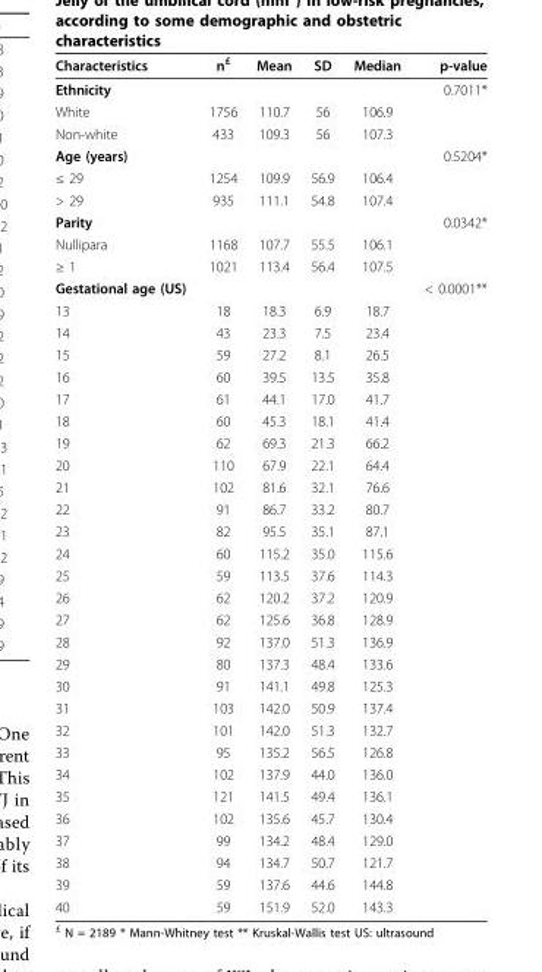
<table><thead><tr><td>Characteristics</td><td>n<sup>£</sup></td><td>Mean</td><td>SD</td><td>Median</td><td>p-value</td></tr></thead><tbody><tr><td>Ethnicity</td><td></td><td></td><td></td><td></td><td>0.7011*</td></tr><tr><td>White</td><td>1756</td><td>110.7</td><td>56</td><td>106.9</td><td></td></tr><tr><td>Non-white</td><td>433</td><td>109.3</td><td>56</td><td>107.3</td><td></td></tr><tr><td>Age (years)</td><td></td><td></td><td></td><td></td><td>0.5204*</td></tr><tr><td>≤ 29</td><td>1254</td><td>109.9</td><td>56.9</td><td>106.4</td><td></td></tr><tr><td>&gt; 29</td><td>935</td><td>111.1</td><td>54.8</td><td>107.4</td><td></td></tr><tr><td>Parity</td><td></td><td></td><td></td><td></td><td>0.0342*</td></tr><tr><td>Nullipara</td><td>1168</td><td>107.7</td><td>55.5</td><td>106.1</td><td></td></tr><tr><td>≥ 1</td><td>1021</td><td>113.4</td><td>56.4</td><td>107.5</td><td></td></tr><tr><td>Gestational age (US)</td><td></td><td></td><td></td><td></td><td>&lt; 0.0001**</td></tr><tr><td>13</td><td>18</td><td>18.3</td><td>6.9</td><td>18.7</td><td></td></tr><tr><td>14</td><td>43</td><td>23.3</td><td>7.5</td><td>23.4</td><td></td></tr><tr><td>15</td><td>59</td><td>27.2</td><td>8.1</td><td>26.5</td><td></td></tr><tr><td>16</td><td>60</td><td>39.5</td><td>13.5</td><td>35.8</td><td></td></tr><tr><td>17</td><td>61</td><td>44.1</td><td>17.0</td><td>41.7</td><td></td></tr><tr><td>18</td><td>60</td><td>45.3</td><td>18.1</td><td>41.4</td><td></td></tr><tr><td>19</td><td>62</td><td>69.3</td><td>21.3</td><td>66.2</td><td></td></tr><tr><td>20</td><td>110</td><td>67.9</td><td>22.1</td><td>64.4</td><td></td></tr><tr><td>21</td><td>102</td><td>81.6</td><td>32.1</td><td>76.6</td><td></td></tr><tr><td>22</td><td>91</td><td>86.7</td><td>33.2</td><td>80.7</td><td></td></tr><tr><td>23</td><td>82</td><td>95.5</td><td>35.1</td><td>87.1</td><td></td></tr><tr><td>24</td><td>60</td><td>115.2</td><td>35.0</td><td>115.6</td><td></td></tr><tr><td>25</td><td>59</td><td>113.5</td><td>37.6</td><td>114.3</td><td></td></tr><tr><td>26</td><td>62</td><td>120.2</td><td>37.2</td><td>120.9</td><td></td></tr><tr><td>27</td><td>62</td><td>125.6</td><td>36.8</td><td>128.9</td><td></td></tr><tr><td>28</td><td>92</td><td>137.0</td><td>51.3</td><td>136.9</td><td></td></tr><tr><td>29</td><td>80</td><td>137.3</td><td>48.4</td><td>133.6</td><td></td></tr><tr><td>30</td><td>91</td><td>141.1</td><td>49.8</td><td>125.3</td><td></td></tr><tr><td>31</td><td>103</td><td>142.0</td><td>50.9</td><td>137.4</td><td></td></tr><tr><td>32</td><td>101</td><td>142.0</td><td>51.3</td><td>132.7</td><td></td></tr><tr><td>33</td><td>95</td><td>135.2</td><td>56.5</td><td>126.8</td><td></td></tr><tr><td>34</td><td>102</td><td>137.9</td><td>44.0</td><td>136.0</td><td></td></tr><tr><td>35</td><td>121</td><td>141.5</td><td>49.4</td><td>136.1</td><td></td></tr><tr><td>36</td><td>102</td><td>135.6</td><td>45.7</td><td>130.4</td><td></td></tr><tr><td>37</td><td>99</td><td>134.2</td><td>48.4</td><td>129.0</td><td></td></tr><tr><td>38</td><td>94</td><td>134.7</td><td>50.7</td><td>121.7</td><td></td></tr><tr><td>39</td><td>59</td><td>137.6</td><td>44.6</td><td>144.8</td><td></td></tr><tr><td>40</td><td>59</td><td>151.9</td><td>52.0</td><td>143.3</td><td></td></tr></tbody></table>